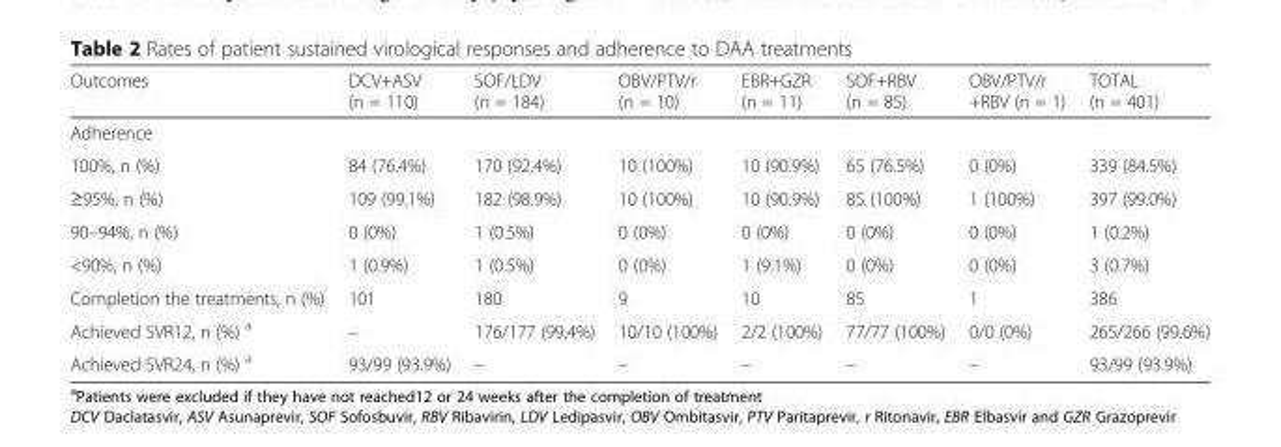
<table><thead><tr><td>Outcomes</td><td>DCV+ASV (n = 110)</td><td>SOF/LDV (n = 184)</td><td>OBV/PTV/r (n = 10)</td><td>EBR+GZR (n = 11)</td><td>SOF+RBV (n = 85)</td><td>OBV/PTV/r +RBV (n = 1)</td><td>TOTAL (n = 401)</td></tr></thead><tbody><tr><td colspan="8">Adherence</td></tr><tr><td>100%, n (%)</td><td>84 (76.4%)</td><td>170 (92.4%)</td><td>10 (100%)</td><td>10 (90.9%)</td><td>65 (76.5%)</td><td>0 (0%)</td><td>339 (84.5%)</td></tr><tr><td>≥95%, n (%)</td><td>109 (99.1%)</td><td>182 (98.9%)</td><td>10 (100%)</td><td>10 (90.9%)</td><td>85 (100%)</td><td>1 (100%)</td><td>397 (99.0%)</td></tr><tr><td>90–94%, n (%)</td><td>0 (0%)</td><td>1 (0.5%)</td><td>0 (0%)</td><td>0 (0%)</td><td>0 (0%)</td><td>0 (0%)</td><td>1 (0.2%)</td></tr><tr><td>&lt;90%, n (%)</td><td>1 (0.9%)</td><td>1 (0.5%)</td><td>0 (0%)</td><td>1 (9.1%)</td><td>0 (0%)</td><td>0 (0%)</td><td>3 (0.7%)</td></tr><tr><td>Completion the treatments, n (%)</td><td>101</td><td>180</td><td>9</td><td>10</td><td>85</td><td>1</td><td>386</td></tr><tr><td>Achieved SVR12, n (%) <sup>a</sup></td><td>–</td><td>176/177 (99.4%)</td><td>10/10 (100%)</td><td>2/2 (100%)</td><td>77/77 (100%)</td><td>0/0 (0%)</td><td>265/266 (99.6%)</td></tr><tr><td>Achieved SVR24, n (%) <sup>a</sup></td><td>93/99 (93.9%)</td><td>–</td><td>–</td><td>–</td><td>–</td><td>–</td><td>93/99 (93.9%)</td></tr></tbody></table>